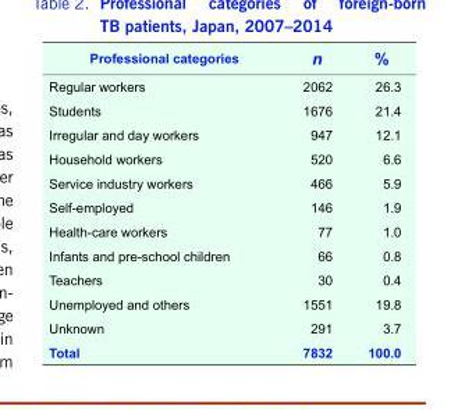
<table><thead><tr><td>Professional categories</td><td>n</td><td>%</td></tr></thead><tbody><tr><td>Regular workers</td><td>2062</td><td>26.3</td></tr><tr><td>Students</td><td>1676</td><td>21.4</td></tr><tr><td>Irregular and day workers</td><td>947</td><td>12.1</td></tr><tr><td>Household workers</td><td>520</td><td>6.6</td></tr><tr><td>Service industry workers</td><td>466</td><td>5.9</td></tr><tr><td>Self-employed</td><td>146</td><td>1.9</td></tr><tr><td>Health-care workers</td><td>77</td><td>1.0</td></tr><tr><td>Infants and pre-school children</td><td>66</td><td>0.8</td></tr><tr><td>Teachers</td><td>30</td><td>0.4</td></tr><tr><td>Unemployed and others</td><td>1551</td><td>19.8</td></tr><tr><td>Unknown</td><td>291</td><td>3.7</td></tr><tr><td>Total</td><td>7832</td><td>100.0</td></tr></tbody></table>